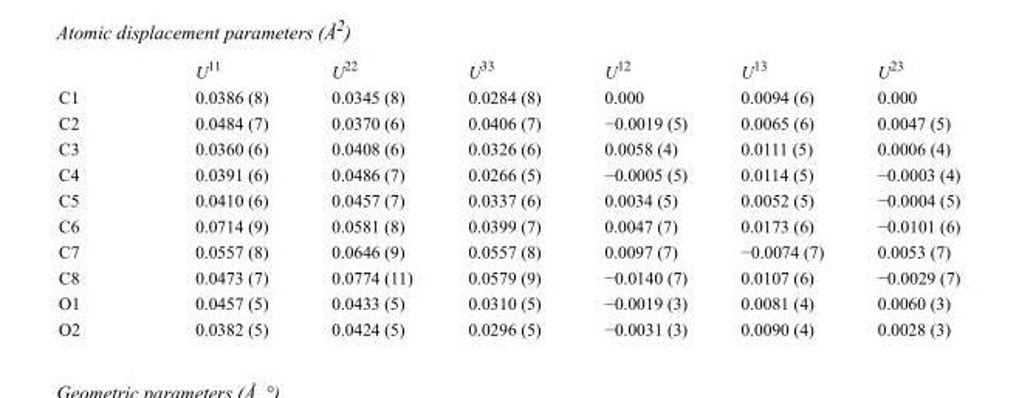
<table><thead><tr><td></td><td>U<sup>11</sup></td><td>U<sup>22</sup></td><td>U<sup>33</sup></td><td>U<sup>12</sup></td><td>U<sup>13</sup></td><td>U<sup>23</sup></td></tr></thead><tbody><tr><td>C1</td><td>0.0386 (8)</td><td>0.0345 (8)</td><td>0.0284 (8)</td><td>0.000</td><td>0.0094 (6)</td><td>0.000</td></tr><tr><td>C2</td><td>0.0484 (7)</td><td>0.0370 (6)</td><td>0.0406 (7)</td><td>−0.0019 (5)</td><td>0.0065 (6)</td><td>0.0047 (5)</td></tr><tr><td>C3</td><td>0.0360 (6)</td><td>0.0408 (6)</td><td>0.0326 (6)</td><td>0.0058 (4)</td><td>0.0111 (5)</td><td>0.0006 (4)</td></tr><tr><td>C4</td><td>0.0391 (6)</td><td>0.0486 (7)</td><td>0.0266 (5)</td><td>−0.0005 (5)</td><td>0.0114 (5)</td><td>−0.0003 (4)</td></tr><tr><td>C5</td><td>0.0410 (6)</td><td>0.0457 (7)</td><td>0.0337 (6)</td><td>0.0034 (5)</td><td>0.0052 (5)</td><td>−0.0004 (5)</td></tr><tr><td>C6</td><td>0.0714 (9)</td><td>0.0581 (8)</td><td>0.0399 (7)</td><td>0.0047 (7)</td><td>0.0173 (6)</td><td>−0.0101 (6)</td></tr><tr><td>C7</td><td>0.0557 (8)</td><td>0.0646 (9)</td><td>0.0557 (8)</td><td>0.0097 (7)</td><td>−0.0074 (7)</td><td>0.0053 (7)</td></tr><tr><td>C8</td><td>0.0473 (7)</td><td>0.0774 (11)</td><td>0.0579 (9)</td><td>−0.0140 (7)</td><td>0.0107 (6)</td><td>−0.0029 (7)</td></tr><tr><td>O1</td><td>0.0457 (5)</td><td>0.0433 (5)</td><td>0.0310 (5)</td><td>−0.0019 (3)</td><td>0.0081 (4)</td><td>0.0060 (3)</td></tr><tr><td>O2</td><td>0.0382 (5)</td><td>0.0424 (5)</td><td>0.0296 (5)</td><td>−0.0031 (3)</td><td>0.0090 (4)</td><td>0.0028 (3)</td></tr></tbody></table>